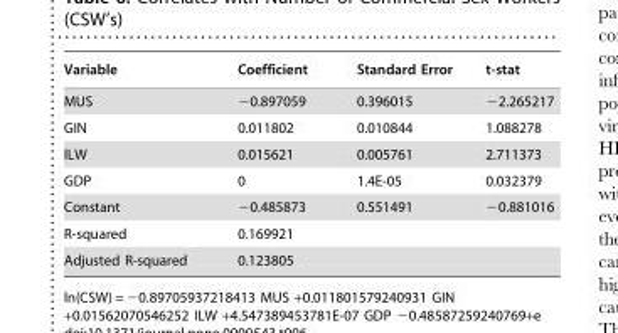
<table><thead><tr><td>Variable</td><td>Coefficient</td><td>Standard Error</td><td>t-stat</td></tr></thead><tbody><tr><td>MUS</td><td>−0.897059</td><td>0.396015</td><td>−2.265217</td></tr><tr><td>GIN</td><td>0.011802</td><td>0.010844</td><td>1.088278</td></tr><tr><td>ILW</td><td>0.015621</td><td>0.005761</td><td>2.711373</td></tr><tr><td>GDP</td><td>0</td><td>1.4E-05</td><td>0.032379</td></tr><tr><td>Constant</td><td>−0.485873</td><td>0.551491</td><td>−0.881016</td></tr><tr><td>R-squared</td><td>0.169921</td><td></td><td></td></tr><tr><td>Adjusted R-squared</td><td>0.123805</td><td></td><td></td></tr></tbody></table>